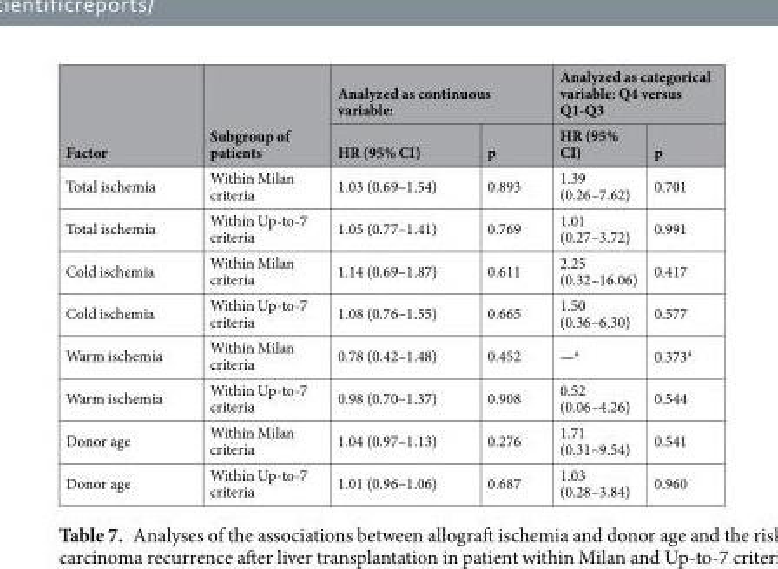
<table><thead><tr><td rowspan="2">Factor</td><td rowspan="2">Subgroup of patients</td><td colspan="2">Analyzed as continuous variable:</td><td colspan="2">Analyzed as categorical variable: Q4 versus Q1-Q3</td></tr><tr><td>HR (95% CI)</td><td>p</td><td>HR (95% CI)</td><td>p</td></tr></thead><tbody><tr><td>Total ischemia</td><td>Within Milan criteria</td><td>1.03 (0.69–1.54)</td><td>0.893</td><td>1.39 (0.26–7.62)</td><td>0.701</td></tr><tr><td>Total ischemia</td><td>Within Up-to-7 criteria</td><td>1.05 (0.77–1.41)</td><td>0.769</td><td>1.01 (0.27–3.72)</td><td>0.991</td></tr><tr><td>Cold ischemia</td><td>Within Milan criteria</td><td>1.14 (0.69–1.87)</td><td>0.611</td><td>2.25 (0.32–16.06)</td><td>0.417</td></tr><tr><td>Cold ischemia</td><td>Within Up-to-7 criteria</td><td>1.08 (0.76–1.55)</td><td>0.665</td><td>1.50 (0.36–6.30)</td><td>0.577</td></tr><tr><td>Warm ischemia</td><td>Within Milan criteria</td><td>0.78 (0.42–1.48)</td><td>0.452</td><td>—<sup>a</sup></td><td>0.373<sup>a</sup></td></tr><tr><td>Warm ischemia</td><td>Within Up-to-7 criteria</td><td>0.98 (0.70–1.37)</td><td>0.908</td><td>0.52 (0.06–4.26)</td><td>0.544</td></tr><tr><td>Donor age</td><td>Within Milan criteria</td><td>1.04 (0.97–1.13)</td><td>0.276</td><td>1.71 (0.31–9.54)</td><td>0.541</td></tr><tr><td>Donor age</td><td>Within Up-to-7 criteria</td><td>1.01 (0.96–1.06)</td><td>0.687</td><td>1.03 (0.28–3.84)</td><td>0.960</td></tr></tbody></table>